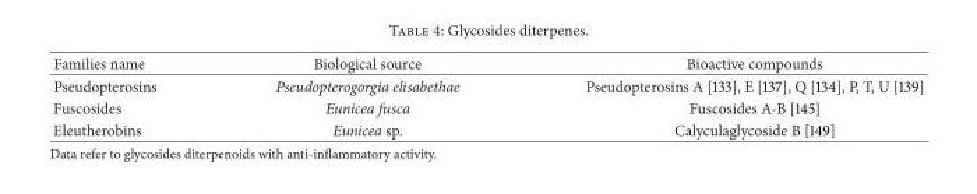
<table><thead><tr><td>Families name</td><td>Biological source</td><td>Bioactive compounds</td></tr></thead><tbody><tr><td>Pseudopterosins</td><td>Pseudopterogorgia elisabethae</td><td>Pseudopterosins A [133], E [137], Q [134], P, T, U [139]</td></tr><tr><td>Fuscosides</td><td>Eunicea fusca</td><td>Fuscosides A-B [145]</td></tr><tr><td>Eleutherobins</td><td>Eunicea sp.</td><td>Calyculaglycoside B [149]</td></tr></tbody></table>